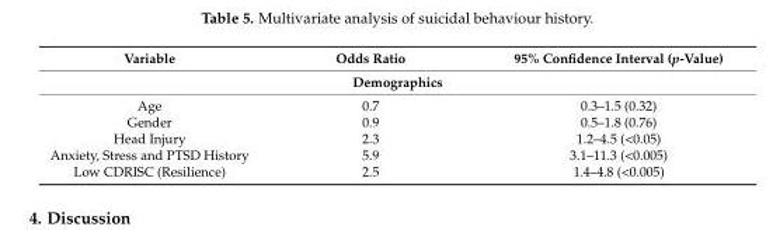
<table><thead><tr><td>Variable</td><td>Odds Ratio</td><td>95% Confidence Interval (p-Value)</td></tr></thead><tbody><tr><td colspan="3">Demographics</td></tr><tr><td>Age</td><td>0.7</td><td>0.3–1.5 (0.32)</td></tr><tr><td>Gender</td><td>0.9</td><td>0.5–1.8 (0.76)</td></tr><tr><td>Head Injury</td><td>2.3</td><td>1.2–4.5 (&lt;0.05)</td></tr><tr><td>Anxiety, Stress and PTSD History</td><td>5.9</td><td>3.1–11.3 (&lt;0.005)</td></tr><tr><td>Low CDRISC (Resilience)</td><td>2.5</td><td>1.4–4.8 (&lt;0.005)</td></tr></tbody></table>